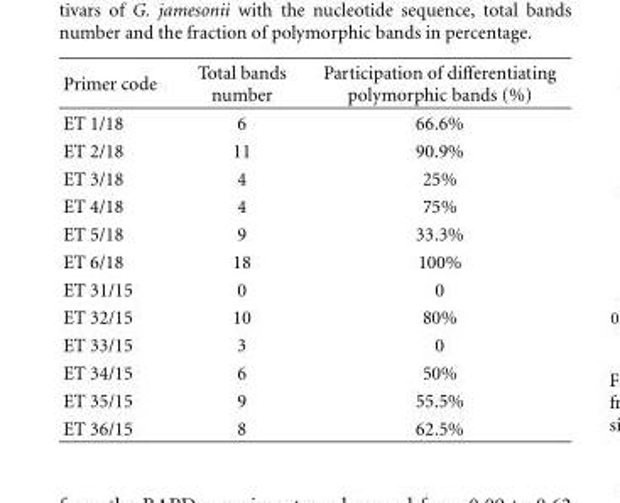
<table><thead><tr><td>Primer code</td><td>Total bands number</td><td>Participation of differentiating polymorphic bands (%)</td></tr></thead><tbody><tr><td>ET 1/18</td><td>6</td><td>66.6%</td></tr><tr><td>ET 2/18</td><td>11</td><td>90.9%</td></tr><tr><td>ET 3/18</td><td>4</td><td>25%</td></tr><tr><td>ET 4/18</td><td>4</td><td>75%</td></tr><tr><td>ET 5/18</td><td>9</td><td>33.3%</td></tr><tr><td>ET 6/18</td><td>18</td><td>100%</td></tr><tr><td>ET 31/15</td><td>0</td><td>0</td></tr><tr><td>ET 32/15</td><td>10</td><td>80%</td></tr><tr><td>ET 33/15</td><td>3</td><td>0</td></tr><tr><td>ET 34/15</td><td>6</td><td>50%</td></tr><tr><td>ET 35/15</td><td>9</td><td>55.5%</td></tr><tr><td>ET 36/15</td><td>8</td><td>62.5%</td></tr></tbody></table>